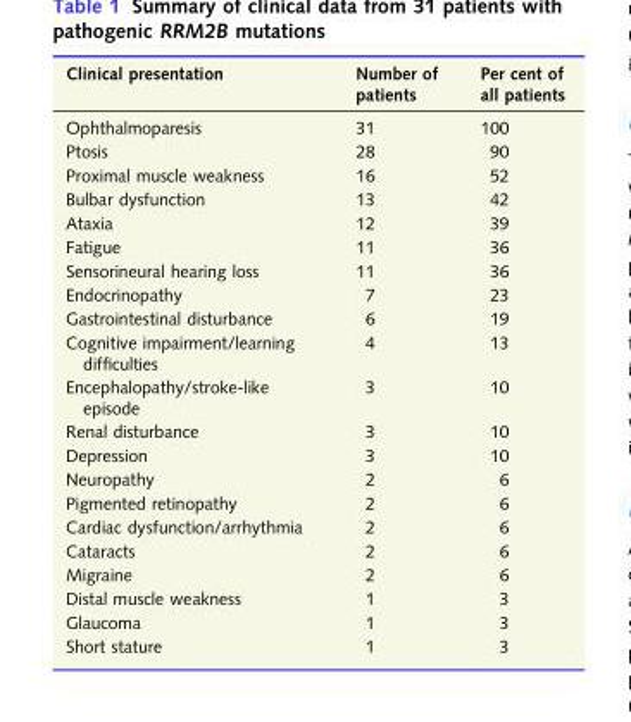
<table><thead><tr><td>Clinical presentation</td><td>Number of patients</td><td>Per cent of all patients</td></tr></thead><tbody><tr><td>Ophthalmoparesis</td><td>31</td><td>100</td></tr><tr><td>Ptosis</td><td>28</td><td>90</td></tr><tr><td>Proximal muscle weakness</td><td>16</td><td>52</td></tr><tr><td>Bulbar dysfunction</td><td>13</td><td>42</td></tr><tr><td>Ataxia</td><td>12</td><td>39</td></tr><tr><td>Fatigue</td><td>11</td><td>36</td></tr><tr><td>Sensorineural hearing loss</td><td>11</td><td>36</td></tr><tr><td>Endocrinopathy</td><td>7</td><td>23</td></tr><tr><td>Gastrointestinal disturbance</td><td>6</td><td>19</td></tr><tr><td>Cognitive impairment/learning difficulties</td><td>4</td><td>13</td></tr><tr><td>Encephalopathy/stroke-like episode</td><td>3</td><td>10</td></tr><tr><td>Renal disturbance</td><td>3</td><td>10</td></tr><tr><td>Depression</td><td>3</td><td>10</td></tr><tr><td>Neuropathy</td><td>2</td><td>6</td></tr><tr><td>Pigmented retinopathy</td><td>2</td><td>6</td></tr><tr><td>Cardiac dysfunction/arrhythmia</td><td>2</td><td>6</td></tr><tr><td>Cataracts</td><td>2</td><td>6</td></tr><tr><td>Migraine</td><td>2</td><td>6</td></tr><tr><td>Distal muscle weakness</td><td>1</td><td>3</td></tr><tr><td>Glaucoma</td><td>1</td><td>3</td></tr><tr><td>Short stature</td><td>1</td><td>3</td></tr></tbody></table>